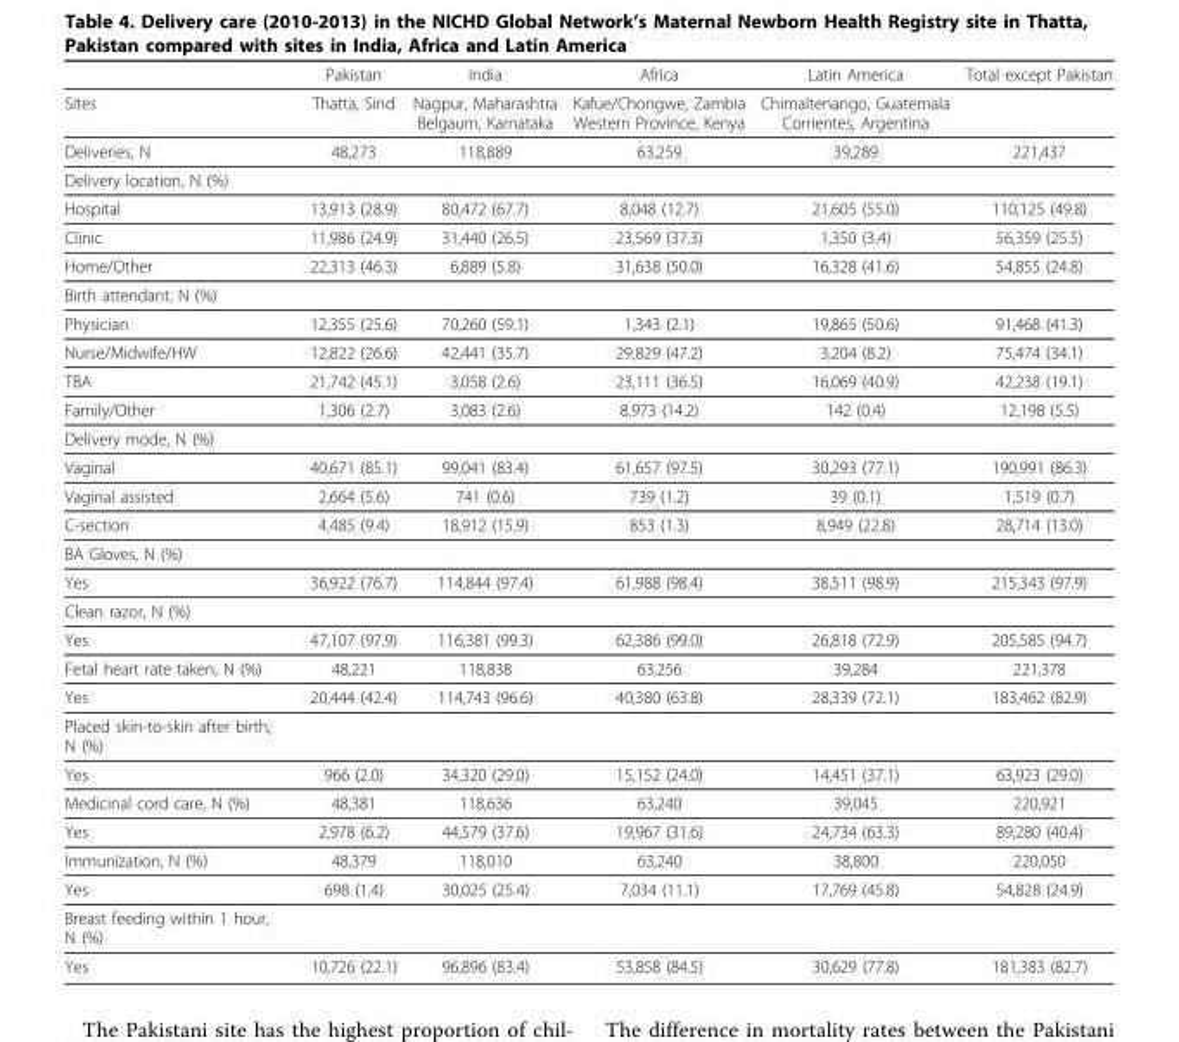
<table><thead><tr><td></td><td>Pakistan</td><td>India</td><td>Africa</td><td>Latin America</td><td>Total except Pakistan</td></tr></thead><tbody><tr><td>Sites</td><td>Thatta, Sind</td><td>Nagpur, Maharashtra Belgaum, Karnataka</td><td>Kafue/Chongwe, Zambia Western Province, Kenya</td><td>Chimaltenango, Guatemala Corrientes, Argentina</td><td></td></tr><tr><td>Deliveries, N</td><td>48,273</td><td>118,889</td><td>63,259</td><td>39,289</td><td>221,437</td></tr><tr><td colspan="6">Delivery location, N (%)</td></tr><tr><td>Hospital</td><td>13,913 (28.9)</td><td>80,472 (67.7)</td><td>8,048 (12.7)</td><td>21,605 (55.0)</td><td>110,125 (49.8)</td></tr><tr><td>Clinic</td><td>11,986 (24.9)</td><td>31,440 (26.5)</td><td>23,569 (37.3)</td><td>1,350 (3.4)</td><td>56,359 (25.5)</td></tr><tr><td>Home/Other</td><td>22,313 (46.3)</td><td>6,889 (5.8)</td><td>31,638 (50.0)</td><td>16,328 (41.6)</td><td>54,855 (24.8)</td></tr><tr><td colspan="6">Birth attendant, N (%)</td></tr><tr><td>Physician</td><td>12,355 (25.6)</td><td>70,260 (59.1)</td><td>1,343 (2.1)</td><td>19,865 (50.6)</td><td>91,468 (41.3)</td></tr><tr><td>Nurse/Midwife/HW</td><td>12,822 (26.6)</td><td>42,441 (35.7)</td><td>29,829 (47.2)</td><td>3,204 (8.2)</td><td>75,474 (34.1)</td></tr><tr><td>TBA</td><td>21,742 (45.1)</td><td>3,058 (2.6)</td><td>23,111 (36.5)</td><td>16,069 (40.9)</td><td>42,238 (19.1)</td></tr><tr><td>Family/Other</td><td>1,306 (2.7)</td><td>3,083 (2.6)</td><td>8,973 (14.2)</td><td>142 (0.4)</td><td>12,198 (5.5)</td></tr><tr><td colspan="6">Delivery mode, N (%)</td></tr><tr><td>Vaginal</td><td>40,671 (85.1)</td><td>99,041 (83.4)</td><td>61,657 (97.5)</td><td>30,293 (77.1)</td><td>190,991 (86.3)</td></tr><tr><td>Vaginal assisted</td><td>2,664 (5.6)</td><td>741 (0.6)</td><td>739 (1.2)</td><td>39 (0.1)</td><td>1,519 (0.7)</td></tr><tr><td>C-section</td><td>4,485 (9.4)</td><td>18,912 (15.9)</td><td>853 (1.3)</td><td>8,949 (22.8)</td><td>28,714 (13.0)</td></tr><tr><td colspan="6">BA Gloves, N (%)</td></tr><tr><td>Yes</td><td>36,922 (76.7)</td><td>114,844 (97.4)</td><td>61,988 (98.4)</td><td>38,511 (98.9)</td><td>215,343 (97.9)</td></tr><tr><td colspan="6">Clean razor, N (%)</td></tr><tr><td>Yes</td><td>47,107 (97.9)</td><td>116,381 (99.3)</td><td>62,386 (99.0)</td><td>26,818 (72.9)</td><td>205,585 (94.7)</td></tr><tr><td>Fetal heart rate taken, N (%)</td><td>48,221</td><td>118,838</td><td>63,256</td><td>39,284</td><td>221,378</td></tr><tr><td>Yes</td><td>20,444 (42.4)</td><td>114,743 (96.6)</td><td>40,380 (63.8)</td><td>28,339 (72.1)</td><td>183,462 (82.9)</td></tr><tr><td colspan="6">Placed skin-to-skin after birth, N (%)</td></tr><tr><td>Yes</td><td>966 (2.0)</td><td>34,320 (29.0)</td><td>15,152 (24.0)</td><td>14,451 (37.1)</td><td>63,923 (29.0)</td></tr><tr><td>Medicinal cord care, N (%)</td><td>48,381</td><td>118,636</td><td>63,240</td><td>39,045</td><td>220,921</td></tr><tr><td>Yes</td><td>2,978 (6.2)</td><td>44,579 (37.6)</td><td>19,967 (31.6)</td><td>24,734 (63.3)</td><td>89,280 (40.4)</td></tr><tr><td>Immunization, N (%)</td><td>48,379</td><td>118,010</td><td>63,240</td><td>38,800</td><td>220,050</td></tr><tr><td>Yes</td><td>698 (1.4)</td><td>30,025 (25.4)</td><td>7,034 (11.1)</td><td>17,769 (45.8)</td><td>54,828 (24.9)</td></tr><tr><td colspan="6">Breast feeding within 1 hour, N (%)</td></tr><tr><td>Yes</td><td>10,726 (22.1)</td><td>96,896 (83.4)</td><td>53,858 (84.5)</td><td>30,629 (77.8)</td><td>181,383 (82.7)</td></tr></tbody></table>